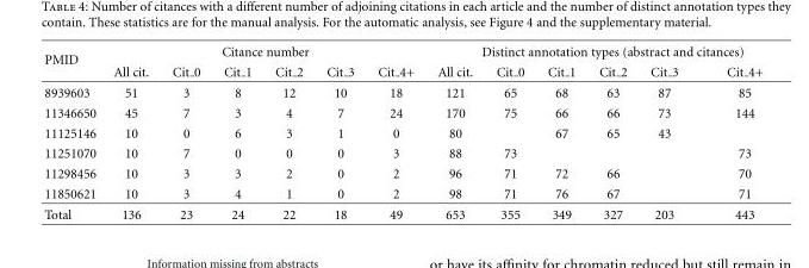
<table><thead><tr><td rowspan="2">PMID</td><td colspan="6">Citance number</td><td colspan="6">Distinct annotation types (abstract and citances)</td></tr><tr><td>All cit.</td><td>Cit 0</td><td>Cit 1</td><td>Cit 2</td><td>Cit 3</td><td>Cit 4+</td><td>All cit.</td><td>Cit 0</td><td>Cit 1</td><td>Cit 2</td><td>Cit 3</td><td>Cit 4+</td></tr></thead><tbody><tr><td>8939603</td><td>51</td><td>3</td><td>8</td><td>12</td><td>10</td><td>18</td><td>121</td><td>65</td><td>68</td><td>63</td><td>87</td><td>85</td></tr><tr><td>11346650</td><td>45</td><td>7</td><td>3</td><td>4</td><td>7</td><td>24</td><td>170</td><td>75</td><td>66</td><td>66</td><td>73</td><td>144</td></tr><tr><td>11125146</td><td>10</td><td>0</td><td>6</td><td>3</td><td>1</td><td>0</td><td>80</td><td></td><td>67</td><td>65</td><td>43</td><td></td></tr><tr><td>11251070</td><td>10</td><td>7</td><td>0</td><td>0</td><td>0</td><td>3</td><td>88</td><td>73</td><td></td><td></td><td></td><td>73</td></tr><tr><td>11298456</td><td>10</td><td>3</td><td>3</td><td>2</td><td>0</td><td>2</td><td>96</td><td>71</td><td>72</td><td>66</td><td></td><td>70</td></tr><tr><td>11850621</td><td>10</td><td>3</td><td>4</td><td>1</td><td>0</td><td>2</td><td>98</td><td>71</td><td>76</td><td>67</td><td></td><td>71</td></tr><tr><td>Total</td><td>136</td><td>23</td><td>24</td><td>22</td><td>18</td><td>49</td><td>653</td><td>355</td><td>349</td><td>327</td><td>203</td><td>443</td></tr></tbody></table>